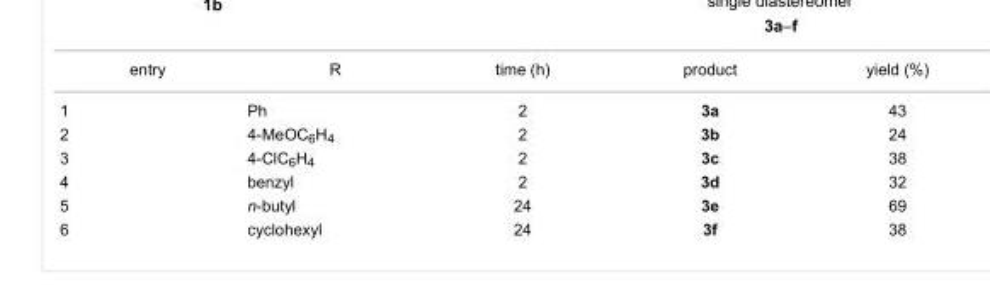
<table><tbody><tr><td>entry</td><td>R</td><td>time (h)</td><td>product</td><td>yield (%)</td></tr><tr><td>1</td><td>Ph</td><td>2</td><td>3a</td><td>43</td></tr><tr><td>2</td><td>4-MeOC<sub>6</sub>H<sub>4</sub></td><td>2</td><td>3b</td><td>24</td></tr><tr><td>3</td><td>4-ClC<sub>6</sub>H<sub>4</sub></td><td>2</td><td>3c</td><td>38</td></tr><tr><td>4</td><td>benzyl</td><td>2</td><td>3d</td><td>32</td></tr><tr><td>5</td><td>n-butyl</td><td>24</td><td>3e</td><td>69</td></tr><tr><td>6</td><td>cyclohexyl</td><td>24</td><td>3f</td><td>38</td></tr></tbody></table>